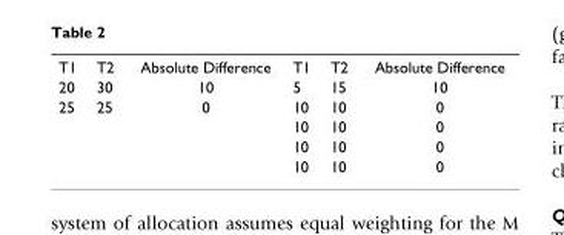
<table><tbody><tr><td>T1</td><td>T2</td><td>Absolute Difference</td><td>T1</td><td>T2</td><td>Absolute Difference</td></tr><tr><td>20</td><td>30</td><td>10</td><td>5</td><td>15</td><td>10</td></tr><tr><td rowspan="4">25</td><td>25</td><td>0</td><td>10</td><td>10</td><td>0</td></tr><tr><td></td><td></td><td>10</td><td>10</td><td>0</td></tr><tr><td></td><td></td><td>10</td><td>10</td><td>0</td></tr><tr><td></td><td></td><td>10</td><td>10</td><td>0</td></tr></tbody></table>